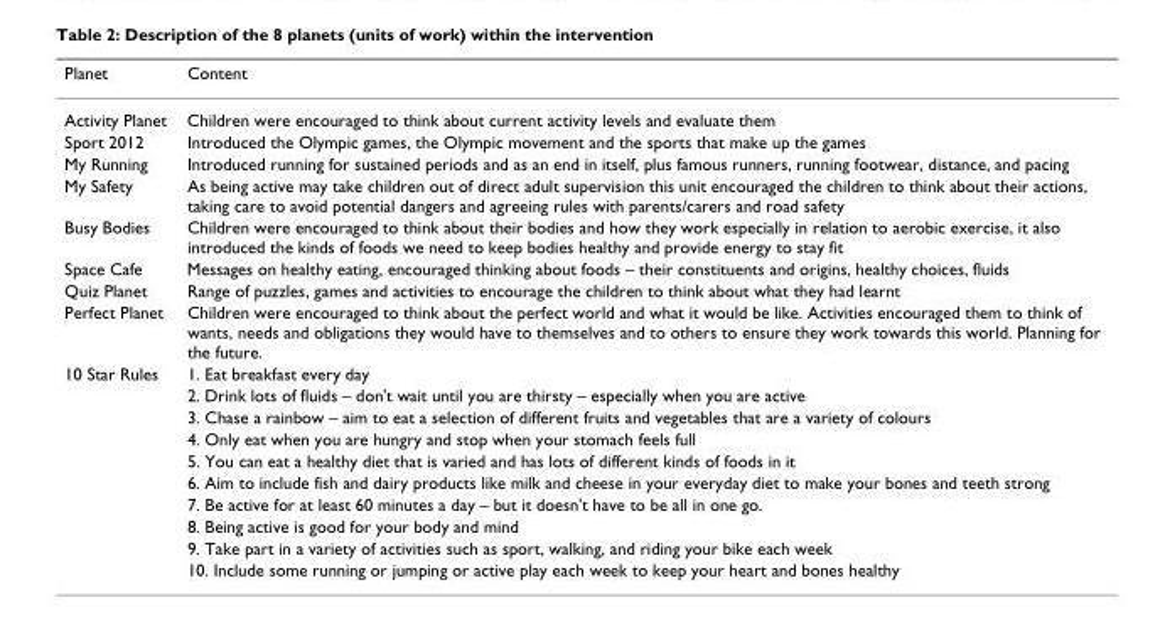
<table><thead><tr><td>Planet</td><td>Content</td></tr></thead><tbody><tr><td>Activity Planet</td><td>Children were encouraged to think about current activity levels and evaluate them</td></tr><tr><td>Sport 2012</td><td>Introduced the Olympic games, the Olympic movement and the sports that make up the games</td></tr><tr><td>My Running</td><td>Introduced running for sustained periods and as an end in itself, plus famous runners, running footwear, distance, and pacing</td></tr><tr><td>My Safety</td><td>As being active may take children out of direct adult supervision this unit encouraged the children to think about their actions, taking care to avoid potential dangers and agreeing rules with parents/carers and road safety</td></tr><tr><td>Busy Bodies</td><td>Children were encouraged to think about their bodies and how they work especially in relation to aerobic exercise, it also introduced the kinds of foods we need to keep bodies healthy and provide energy to stay fit</td></tr><tr><td>Space Cafe</td><td>Messages on healthy eating, encouraged thinking about foods – their constituents and origins, healthy choices, fluids</td></tr><tr><td>Quiz Planet</td><td>Range of puzzles, games and activities to encourage the children to think about what they had learnt</td></tr><tr><td>Perfect Planet</td><td>Children were encouraged to think about the perfect world and what it would be like. Activities encouraged them to think of wants, needs and obligations they would have to themselves and to others to ensure they work towards this world. Planning for the future.</td></tr><tr><td rowspan="10">10 Star Rules</td><td>1. Eat breakfast every day</td></tr><tr><td>2. Drink lots of fluids – don&#x27;t wait until you are thirsty – especially when you are active</td></tr><tr><td>3. Chase a rainbow – aim to eat a selection of different fruits and vegetables that are a variety of colours</td></tr><tr><td>4. Only eat when you are hungry and stop when your stomach feels full</td></tr><tr><td>5. You can eat a healthy diet that is varied and has lots of different kinds of foods in it</td></tr><tr><td>6. Aim to include fish and dairy products like milk and cheese in your everyday diet to make your bones and teeth strong</td></tr><tr><td>7. Be active for at least 60 minutes a day – but it doesn&#x27;t have to be all in one go.</td></tr><tr><td>8. Being active is good for your body and mind</td></tr><tr><td>9. Take part in a variety of activities such as sport, walking, and riding your bike each week</td></tr><tr><td>10. Include some running or jumping or active play each week to keep your heart and bones healthy</td></tr></tbody></table>